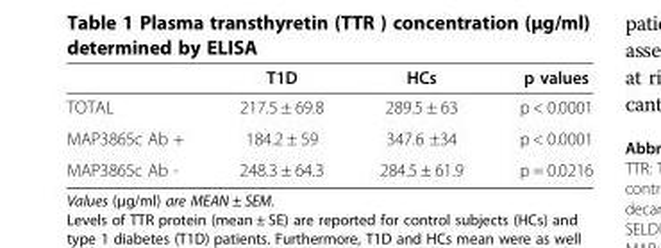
<table><thead><tr><td></td><td>T1D</td><td>HCs</td><td>p values</td></tr></thead><tbody><tr><td>TOTAL</td><td>217.5 ± 69.8</td><td>289.5 ± 63</td><td>p &lt; 0.0001</td></tr><tr><td>MAP3865c Ab +</td><td>184.2 ± 59</td><td>347.6 ±34</td><td>p &lt; 0.0001</td></tr><tr><td>MAP3865c Ab -</td><td>248.3 ± 64.3</td><td>284.5 ± 61.9</td><td>p = 0.0216</td></tr></tbody></table>